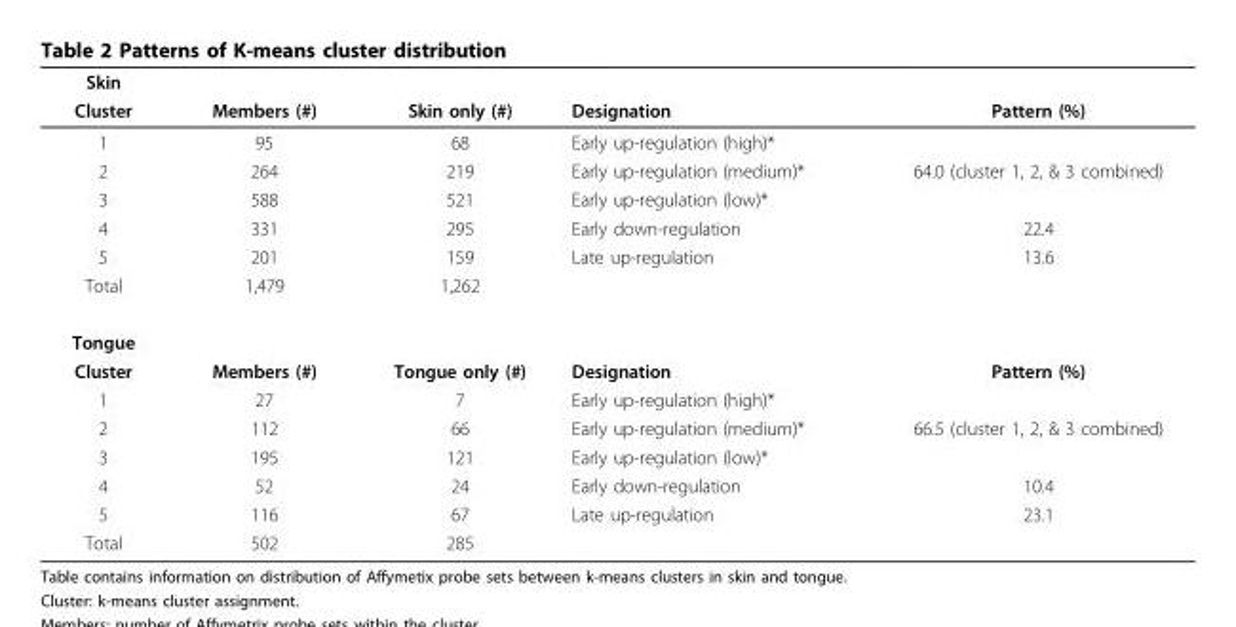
<table><thead><tr><td rowspan="2">Skin Cluster</td><td rowspan="2">Members (#)</td><td rowspan="2">Skin only (#)</td><td rowspan="2">Designation</td><td rowspan="2">Pattern (%)</td></tr><tr></tr></thead><tbody><tr><td>1</td><td>95</td><td>68</td><td>Early up-regulation (high)*</td><td></td></tr><tr><td>2</td><td>264</td><td>219</td><td>Early up-regulation (medium)*</td><td>64.0 (cluster 1, 2, &amp; 3 combined)</td></tr><tr><td>3</td><td>588</td><td>521</td><td>Early up-regulation (low)*</td><td></td></tr><tr><td>4</td><td>331</td><td>295</td><td>Early down-regulation</td><td>22.4</td></tr><tr><td>5</td><td>201</td><td>159</td><td>Late up-regulation</td><td>13.6</td></tr><tr><td>Total</td><td>1,479</td><td>1,262</td><td></td><td></td></tr><tr><td colspan="5">Tongue</td></tr><tr><td>Cluster</td><td>Members (#)</td><td>Tongue only (#)</td><td>Designation</td><td>Pattern (%)</td></tr><tr><td>1</td><td>27</td><td>7</td><td>Early up-regulation (high)*</td><td></td></tr><tr><td>2</td><td>112</td><td>66</td><td>Early up-regulation (medium)*</td><td>66.5 (cluster 1, 2, &amp; 3 combined)</td></tr><tr><td>3</td><td>195</td><td>121</td><td>Early up-regulation (low)*</td><td></td></tr><tr><td>4</td><td>52</td><td>24</td><td>Early down-regulation</td><td>10.4</td></tr><tr><td>5</td><td>116</td><td>67</td><td>Late up-regulation</td><td>23.1</td></tr><tr><td>Total</td><td>502</td><td>285</td><td></td><td></td></tr></tbody></table>